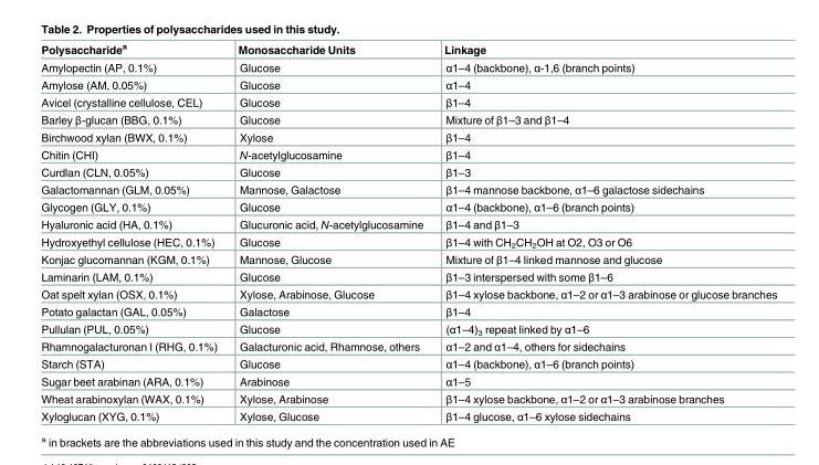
<table><thead><tr><td>Polysaccharide<sup>a</sup></td><td>Monosaccharide Units</td><td>Linkage</td></tr></thead><tbody><tr><td>Amylopectin (AP, 0.1%)</td><td>Glucose</td><td>α1–4 (backbone), α-1,6 (branch points)</td></tr><tr><td>Amylose (AM, 0.05%)</td><td>Glucose</td><td>α1–4</td></tr><tr><td>Avicel (crystalline cellulose, CEL)</td><td>Glucose</td><td>β1–4</td></tr><tr><td>Barley β-glucan (BBG, 0.1%)</td><td>Glucose</td><td>Mixture of β1–3 and β1–4</td></tr><tr><td>Birchwood xylan (BWX, 0.1%)</td><td>Xylose</td><td>β1–4</td></tr><tr><td>Chitin (CHI)</td><td>N-acetylglucosamine</td><td>β1–4</td></tr><tr><td>Curdlan (CLN, 0.05%)</td><td>Glucose</td><td>β1–3</td></tr><tr><td>Galactomannan (GLM, 0.05%)</td><td>Mannose, Galactose</td><td>β1–4 mannose backbone, α1–6 galactose sidechains</td></tr><tr><td>Glycogen (GLY, 0.1%)</td><td>Glucose</td><td>α1–4 (backbone), α1–6 (branch points)</td></tr><tr><td>Hyaluronic acid (HA, 0.1%)</td><td>Glucuronic acid, N-acetylglucosamine</td><td>β1–4 and β1–3</td></tr><tr><td>Hydroxyethyl cellulose (HEC, 0.1%)</td><td>Glucose</td><td>β1–4 with CH<sub>2</sub>CH<sub>2</sub>OH at O2, O3 or O6</td></tr><tr><td>Konjac glucomannan (KGM, 0.1%)</td><td>Mannose, Glucose</td><td>Mixture of β1–4 linked mannose and glucose</td></tr><tr><td>Laminarin (LAM, 0.1%)</td><td>Glucose</td><td>β1–3 interspersed with some β1–6</td></tr><tr><td>Oat spelt xylan (OSX, 0.1%)</td><td>Xylose, Arabinose, Glucose</td><td>β1–4 xylose backbone, α1–2 or α1–3 arabinose or glucose branches</td></tr><tr><td>Potato galactan (GAL, 0.05%)</td><td>Galactose</td><td>β1–4</td></tr><tr><td>Pullulan (PUL, 0.05%)</td><td>Glucose</td><td>(α1–4)<sub>3</sub> repeat linked by α1–6</td></tr><tr><td>Rhamnogalacturonan I (RHG, 0.1%)</td><td>Galacturonic acid, Rhamnose, others</td><td>α1–2 and α1–4, others for sidechains</td></tr><tr><td>Starch (STA)</td><td>Glucose</td><td>α1–4 (backbone), α1–6 (branch points)</td></tr><tr><td>Sugar beet arabinan (ARA, 0.1%)</td><td>Arabinose</td><td>α1–5</td></tr><tr><td>Wheat arabinoxylan (WAX, 0.1%)</td><td>Xylose, Arabinose</td><td>β1–4 xylose backbone, α1–2 or α1–3 arabinose branches</td></tr><tr><td>Xyloglucan (XYG, 0.1%)</td><td>Xylose, Glucose</td><td>β1–4 glucose, α1–6 xylose sidechains</td></tr></tbody></table>